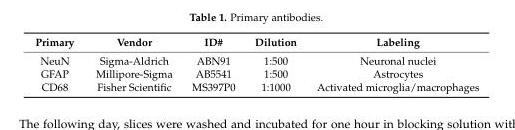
<table><thead><tr><td>Primary</td><td>Vendor</td><td>ID#</td><td>Dilution</td><td>Labeling</td></tr></thead><tbody><tr><td>NeuN</td><td>Sigma-Aldrich</td><td>ABN91</td><td>1:500</td><td>Neuronal nuclei</td></tr><tr><td>GFAP</td><td>Millipore-Sigma</td><td>AB5541</td><td>1:500</td><td>Astrocytes</td></tr><tr><td>CD68</td><td>Fisher Scientific</td><td>MS397P0</td><td>1:1000</td><td>Activated microglia/macrophages</td></tr></tbody></table>